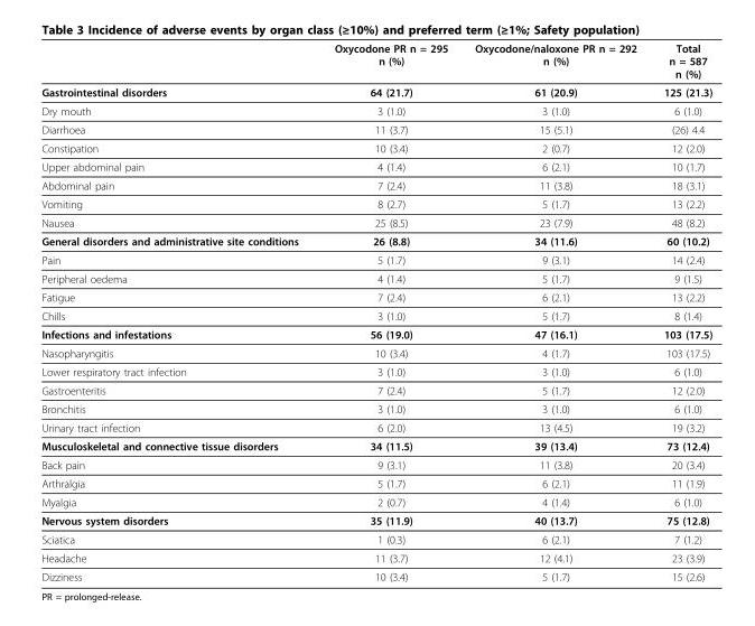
<table><thead><tr><td></td><td>Oxycodone PR n = 295 n (%)</td><td>Oxycodone/naloxone PR n = 292 n (%)</td><td>Total n = 587 n (%)</td></tr></thead><tbody><tr><td>Gastrointestinal disorders</td><td>64 (21.7)</td><td>61 (20.9)</td><td>125 (21.3)</td></tr><tr><td>Dry mouth</td><td>3 (1.0)</td><td>3 (1.0)</td><td>6 (1.0)</td></tr><tr><td>Diarrhoea</td><td>11 (3.7)</td><td>15 (5.1)</td><td>(26) 4.4</td></tr><tr><td>Constipation</td><td>10 (3.4)</td><td>2 (0.7)</td><td>12 (2.0)</td></tr><tr><td>Upper abdominal pain</td><td>4 (1.4)</td><td>6 (2.1)</td><td>10 (1.7)</td></tr><tr><td>Abdominal pain</td><td>7 (2.4)</td><td>11 (3.8)</td><td>18 (3.1)</td></tr><tr><td>Vomiting</td><td>8 (2.7)</td><td>5 (1.7)</td><td>13 (2.2)</td></tr><tr><td>Nausea</td><td>25 (8.5)</td><td>23 (7.9)</td><td>48 (8.2)</td></tr><tr><td>General disorders and administrative site conditions</td><td>26 (8.8)</td><td>34 (11.6)</td><td>60 (10.2)</td></tr><tr><td>Pain</td><td>5 (1.7)</td><td>9 (3.1)</td><td>14 (2.4)</td></tr><tr><td>Peripheral oedema</td><td>4 (1.4)</td><td>5 (1.7)</td><td>9 (1.5)</td></tr><tr><td>Fatigue</td><td>7 (2.4)</td><td>6 (2.1)</td><td>13 (2.2)</td></tr><tr><td>Chills</td><td>3 (1.0)</td><td>5 (1.7)</td><td>8 (1.4)</td></tr><tr><td>Infections and infestations</td><td>56 (19.0)</td><td>47 (16.1)</td><td>103 (17.5)</td></tr><tr><td>Nasopharyngitis</td><td>10 (3.4)</td><td>4 (1.7)</td><td>103 (17.5)</td></tr><tr><td>Lower respiratory tract infection</td><td>3 (1.0)</td><td>3 (1.0)</td><td>6 (1.0)</td></tr><tr><td>Gastroenteritis</td><td>7 (2.4)</td><td>5 (1.7)</td><td>12 (2.0)</td></tr><tr><td>Bronchitis</td><td>3 (1.0)</td><td>3 (1.0)</td><td>6 (1.0)</td></tr><tr><td>Urinary tract infection</td><td>6 (2.0)</td><td>13 (4.5)</td><td>19 (3.2)</td></tr><tr><td>Musculoskeletal and connective tissue disorders</td><td>34 (11.5)</td><td>39 (13.4)</td><td>73 (12.4)</td></tr><tr><td>Back pain</td><td>9 (3.1)</td><td>11 (3.8)</td><td>20 (3.4)</td></tr><tr><td>Arthralgia</td><td>5 (1.7)</td><td>6 (2.1)</td><td>11 (1.9)</td></tr><tr><td>Myalgia</td><td>2 (0.7)</td><td>4 (1.4)</td><td>6 (1.0)</td></tr><tr><td>Nervous system disorders</td><td>35 (11.9)</td><td>40 (13.7)</td><td>75 (12.8)</td></tr><tr><td>Sciatica</td><td>1 (0.3)</td><td>6 (2.1)</td><td>7 (1.2)</td></tr><tr><td>Headache</td><td>11 (3.7)</td><td>12 (4.1)</td><td>23 (3.9)</td></tr><tr><td>Dizziness</td><td>10 (3.4)</td><td>5 (1.7)</td><td>15 (2.6)</td></tr></tbody></table>